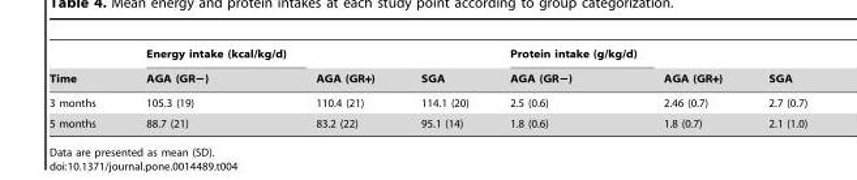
<table><thead><tr><td rowspan="2">Time</td><td rowspan="2">Energy intake (kcal/kg/d) AGA (GR−)</td><td rowspan="2">AGA (GR+)</td><td rowspan="2">SGA</td><td rowspan="2">Protein intake (g/kg/d) AGA (GR−)</td><td rowspan="2">AGA (GR+)</td><td rowspan="2">SGA</td></tr><tr></tr></thead><tbody><tr><td>3 months</td><td>105.3 (19)</td><td>110.4 (21)</td><td>114.1 (20)</td><td>2.5 (0.6)</td><td>2.46 (0.7)</td><td>2.7 (0.7)</td></tr><tr><td>5 months</td><td>88.7 (21)</td><td>83.2 (22)</td><td>95.1 (14)</td><td>1.8 (0.6)</td><td>1.8 (0.7)</td><td>2.1 (1.0)</td></tr></tbody></table>